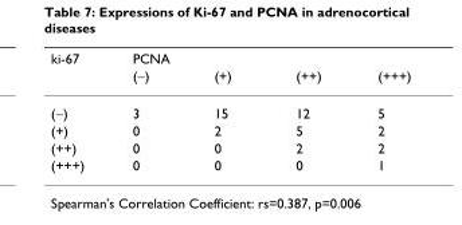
<table><thead><tr><td rowspan="2">ki-67</td><td colspan="4">PCNA</td></tr><tr><td>(−)</td><td>(+)</td><td>(++)</td><td>(+++)</td></tr></thead><tbody><tr><td>(−)</td><td>3</td><td>15</td><td>12</td><td>5</td></tr><tr><td>(+)</td><td>0</td><td>2</td><td>5</td><td>2</td></tr><tr><td>(++)</td><td>0</td><td>0</td><td>2</td><td>2</td></tr><tr><td>(+++)</td><td>0</td><td>0</td><td>0</td><td>1</td></tr></tbody></table>